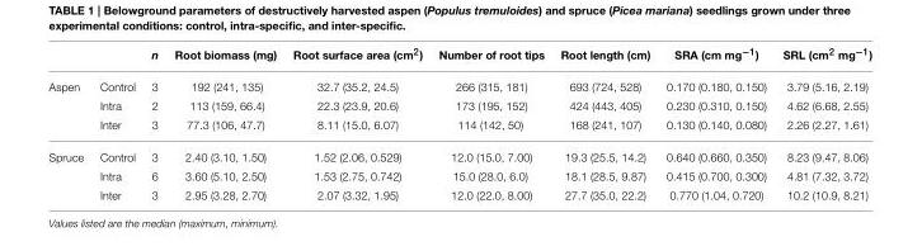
<table><thead><tr><td></td><td></td><td>n</td><td>Root biomass (mg)</td><td>Root surface area (cm<sup>2</sup>)</td><td>Number of root tips</td><td>Root length (cm)</td><td>SRA (cm mg<sup>−1</sup>)</td><td>SRL (cm<sup>2</sup> mg<sup>−1</sup>)</td></tr></thead><tbody><tr><td rowspan="3">Aspen</td><td>Control</td><td>3</td><td>192 (241, 135)</td><td>32.7 (35.2, 24.5)</td><td>266 (315, 181)</td><td>693 (724, 528)</td><td>0.170 (0.180, 0.150)</td><td>3.79 (5.16, 2.19)</td></tr><tr><td>Intra</td><td>2</td><td>113 (159, 66.4)</td><td>22.3 (23.9, 20.6)</td><td>173 (195, 152)</td><td>424 (443, 405)</td><td>0.230 (0.310, 0.150)</td><td>4.62 (6.68, 2.55)</td></tr><tr><td>Inter</td><td>3</td><td>77.3 (106, 47.7)</td><td>8.11 (15.0, 6.07)</td><td>114 (142, 50)</td><td>168 (241, 107)</td><td>0.130 (0.140, 0.080)</td><td>2.26 (2.27, 1.61)</td></tr><tr><td rowspan="3">Spruce</td><td>Control</td><td>3</td><td>2.40 (3.10, 1.50)</td><td>1.52 (2.06, 0.529)</td><td>12.0 (15.0, 7.00)</td><td>19.3 (25.5, 14.2)</td><td>0.640 (0.660, 0.350)</td><td>8.23 (9.47, 8.06)</td></tr><tr><td>Intra</td><td>6</td><td>3.60 (5.10, 2.50)</td><td>1.53 (2.75, 0.742)</td><td>15.0 (28.0, 6.0)</td><td>18.1 (28.5, 9.87)</td><td>0.415 (0.700, 0.300)</td><td>4.81 (7.32, 3.72)</td></tr><tr><td>Inter</td><td>3</td><td>2.95 (3.28, 2.70)</td><td>2.07 (3.32, 1.95)</td><td>12.0 (22.0, 8.00)</td><td>27.7 (35.0, 22.2)</td><td>0.770 (1.04, 0.720)</td><td>10.2 (10.9, 8.21)</td></tr></tbody></table>